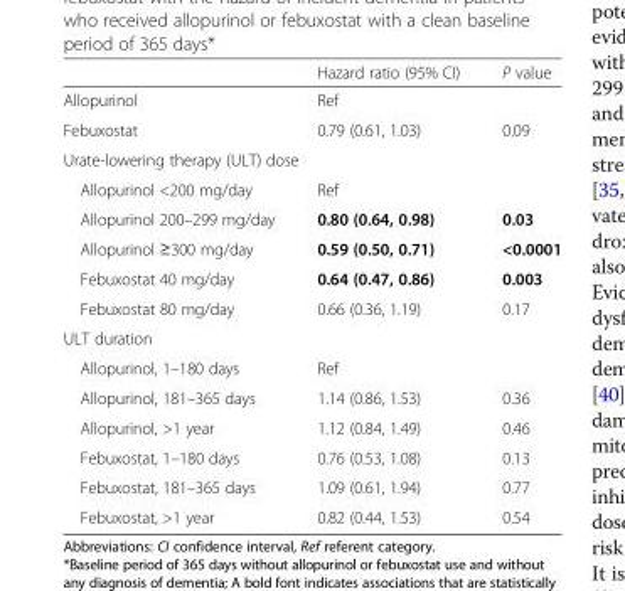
<table><thead><tr><td></td><td>Hazard ratio (95% CI)</td><td>P value</td></tr></thead><tbody><tr><td>Allopurinol</td><td>Ref</td><td></td></tr><tr><td>Febuxostat</td><td>0.79 (0.61, 1.03)</td><td>0.09</td></tr><tr><td colspan="3">Urate-lowering therapy (ULT) dose</td></tr><tr><td>Allopurinol &lt;200 mg/day</td><td>Ref</td><td></td></tr><tr><td>Allopurinol 200–299 mg/day</td><td>0.80 (0.64, 0.98)</td><td>0.03</td></tr><tr><td>Allopurinol ≥300 mg/day</td><td>0.59 (0.50, 0.71)</td><td>&lt;0.0001</td></tr><tr><td>Febuxostat 40 mg/day</td><td>0.64 (0.47, 0.86)</td><td>0.003</td></tr><tr><td>Febuxostat 80 mg/day</td><td>0.66 (0.36, 1.19)</td><td>0.17</td></tr><tr><td colspan="3">ULT duration</td></tr><tr><td>Allopurinol, 1–180 days</td><td>Ref</td><td></td></tr><tr><td>Allopurinol, 181–365 days</td><td>1.14 (0.86, 1.53)</td><td>0.36</td></tr><tr><td>Allopurinol, &gt;1 year</td><td>1.12 (0.84, 1.49)</td><td>0.46</td></tr><tr><td>Febuxostat, 1–180 days</td><td>0.76 (0.53, 1.08)</td><td>0.13</td></tr><tr><td>Febuxostat, 181–365 days</td><td>1.09 (0.61, 1.94)</td><td>0.77</td></tr><tr><td>Febuxostat, &gt;1 year</td><td>0.82 (0.44, 1.53)</td><td>0.54</td></tr></tbody></table>